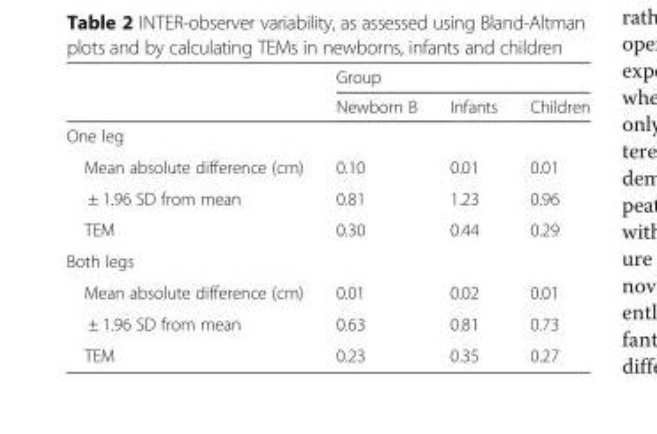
<table><thead><tr><td rowspan="2"></td><td colspan="3">Group</td></tr><tr><td>Newborn B</td><td>Infants</td><td>Children</td></tr></thead><tbody><tr><td colspan="4">One leg</td></tr><tr><td>Mean absolute difference (cm)</td><td>0.10</td><td>0.01</td><td>0.01</td></tr><tr><td>± 1.96 SD from mean</td><td>0.81</td><td>1.23</td><td>0.96</td></tr><tr><td>TEM</td><td>0.30</td><td>0.44</td><td>0.29</td></tr><tr><td colspan="4">Both legs</td></tr><tr><td>Mean absolute difference (cm)</td><td>0.01</td><td>0.02</td><td>0.01</td></tr><tr><td>± 1.96 SD from mean</td><td>0.63</td><td>0.81</td><td>0.73</td></tr><tr><td>TEM</td><td>0.23</td><td>0.35</td><td>0.27</td></tr></tbody></table>